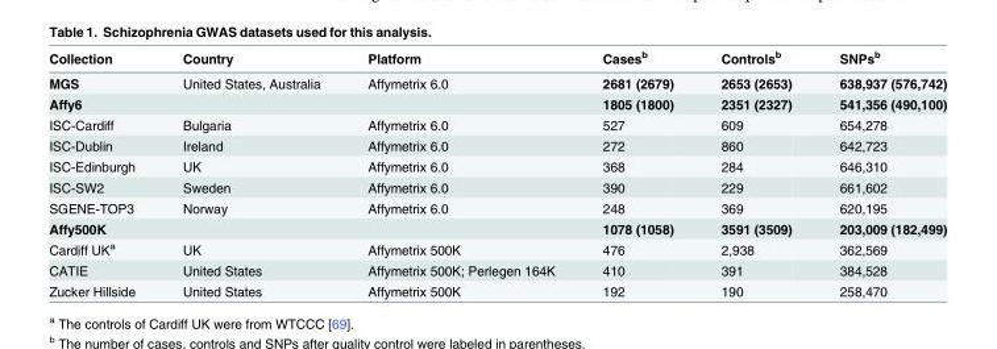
<table><thead><tr><td>Collection</td><td>Country</td><td>Platform</td><td>Cases<sup>b</sup></td><td>Controls<sup>b</sup></td><td>SNPs<sup>b</sup></td></tr></thead><tbody><tr><td>MGS</td><td>United States, Australia</td><td>Affymetrix 6.0</td><td>2681 (2679)</td><td>2653 (2653)</td><td>638,937 (576,742)</td></tr><tr><td>Affy6</td><td></td><td></td><td>1805 (1800)</td><td>2351 (2327)</td><td>541,356 (490,100)</td></tr><tr><td>ISC-Cardiff</td><td>Bulgaria</td><td>Affymetrix 6.0</td><td>527</td><td>609</td><td>654,278</td></tr><tr><td>ISC-Dublin</td><td>Ireland</td><td>Affymetrix 6.0</td><td>272</td><td>860</td><td>642,723</td></tr><tr><td>ISC-Edinburgh</td><td>UK</td><td>Affymetrix 6.0</td><td>368</td><td>284</td><td>646,310</td></tr><tr><td>ISC-SW2</td><td>Sweden</td><td>Affymetrix 6.0</td><td>390</td><td>229</td><td>661,602</td></tr><tr><td>SGENE-TOP3</td><td>Norway</td><td>Affymetrix 6.0</td><td>248</td><td>369</td><td>620,195</td></tr><tr><td>Affy500K</td><td></td><td></td><td>1078 (1058)</td><td>3591 (3509)</td><td>203,009 (182,499)</td></tr><tr><td>Cardiff UK<sup>a</sup></td><td>UK</td><td>Affymetrix 500K</td><td>476</td><td>2,938</td><td>362,569</td></tr><tr><td>CATIE</td><td>United States</td><td>Affymetrix 500K; Perlegen 164K</td><td>410</td><td>391</td><td>384,528</td></tr><tr><td>Zucker Hillside</td><td>United States</td><td>Affymetrix 500K</td><td>192</td><td>190</td><td>258,470</td></tr></tbody></table>